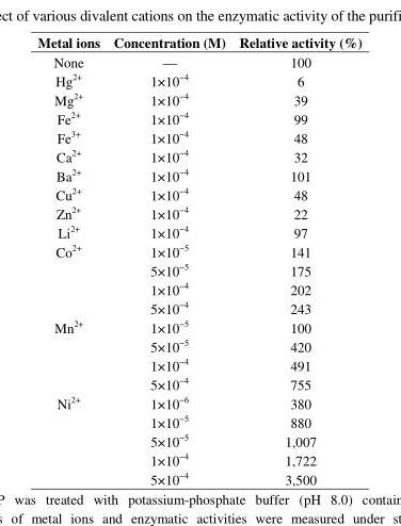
<table><thead><tr><td>Metal ions</td><td>Concentration (M)</td><td>Relative activity (%)</td></tr></thead><tbody><tr><td>None</td><td>—</td><td>100</td></tr><tr><td>Hg<sup>2+</sup></td><td>1×10<sup>−4</sup></td><td>6</td></tr><tr><td>Mg<sup>2+</sup></td><td>1×10<sup>−4</sup></td><td>39</td></tr><tr><td>Fe<sup>2+</sup></td><td>1×10<sup>−4</sup></td><td>99</td></tr><tr><td>Fe<sup>3+</sup></td><td>1×10<sup>−4</sup></td><td>48</td></tr><tr><td>Ca<sup>2+</sup></td><td>1×10<sup>−4</sup></td><td>32</td></tr><tr><td>Ba<sup>2+</sup></td><td>1×10<sup>−4</sup></td><td>101</td></tr><tr><td>Cu<sup>2+</sup></td><td>1×10<sup>−4</sup></td><td>48</td></tr><tr><td>Zn<sup>2+</sup></td><td>1×10<sup>−4</sup></td><td>22</td></tr><tr><td>Li<sup>2+</sup></td><td>1×10<sup>−4</sup></td><td>97</td></tr><tr><td rowspan="4">Co<sup>2+</sup></td><td>1×10<sup>−5</sup></td><td>141</td></tr><tr><td>5×10<sup>−5</sup></td><td>175</td></tr><tr><td>1×10<sup>−4</sup></td><td>202</td></tr><tr><td>5×10<sup>−4</sup></td><td>243</td></tr><tr><td rowspan="4">Mn<sup>2+</sup></td><td>1×10<sup>−5</sup></td><td>100</td></tr><tr><td>5×10<sup>−5</sup></td><td>420</td></tr><tr><td>1×10<sup>−4</sup></td><td>491</td></tr><tr><td>5×10<sup>−4</sup></td><td>755</td></tr><tr><td rowspan="5">Ni<sup>2+</sup></td><td>1×10<sup>−6</sup></td><td>380</td></tr><tr><td>1×10<sup>−5</sup></td><td>880</td></tr><tr><td>5×10<sup>−5</sup></td><td>1,007</td></tr><tr><td>1×10<sup>−4</sup></td><td>1,722</td></tr><tr><td>5×10<sup>−4</sup></td><td>3,500</td></tr></tbody></table>